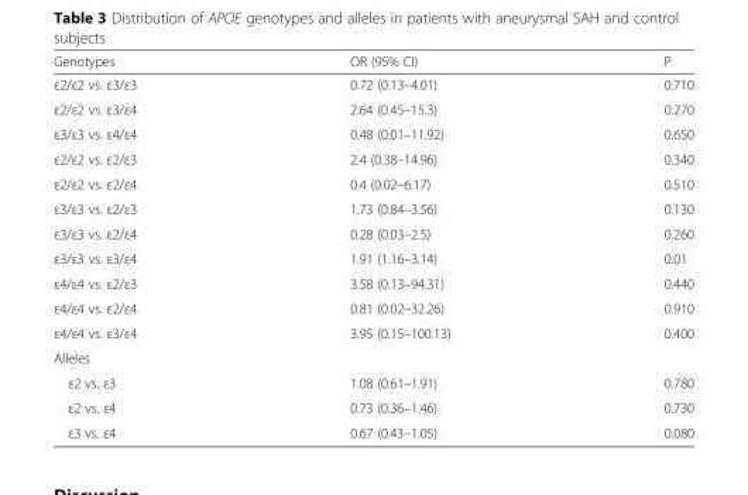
<table><thead><tr><td>Genotypes</td><td>OR (95% CI)</td><td>P</td></tr></thead><tbody><tr><td>ε2/ε2 vs. ε3/ε3</td><td>0.72 (0.13–4.01)</td><td>0.710</td></tr><tr><td>ε2/ε2 vs. ε3/ε4</td><td>2.64 (0.45–15.3)</td><td>0.270</td></tr><tr><td>ε3/ε3 vs. ε4/ε4</td><td>0.48 (0.01–11.92)</td><td>0.650</td></tr><tr><td>ε2/ε2 vs. ε2/ε3</td><td>2.4 (0.38–14.96)</td><td>0.340</td></tr><tr><td>ε2/ε2 vs. ε2/ε4</td><td>0.4 (0.02–6.17)</td><td>0.510</td></tr><tr><td>ε3/ε3 vs. ε2/ε3</td><td>1.73 (0.84–3.56)</td><td>0.130</td></tr><tr><td>ε3/ε3 vs. ε2/ε4</td><td>0.28 (0.03–2.5)</td><td>0.260</td></tr><tr><td>ε3/ε3 vs. ε3/ε4</td><td>1.91 (1.16–3.14)</td><td>0.01</td></tr><tr><td>ε4/ε4 vs. ε2/ε3</td><td>3.58 (0.13–94.31)</td><td>0.440</td></tr><tr><td>ε4/ε4 vs. ε2/ε4</td><td>0.81 (0.02–32.26)</td><td>0.910</td></tr><tr><td>ε4/ε4 vs. ε3/ε4</td><td>3.95 (0.15–100.13)</td><td>0.400</td></tr><tr><td colspan="3">Alleles</td></tr><tr><td>ε2 vs. ε3</td><td>1.08 (0.61–1.91)</td><td>0.780</td></tr><tr><td>ε2 vs. ε4</td><td>0.73 (0.36–1.46)</td><td>0.730</td></tr><tr><td>ε3 vs. ε4</td><td>0.67 (0.43–1.05)</td><td>0.080</td></tr></tbody></table>